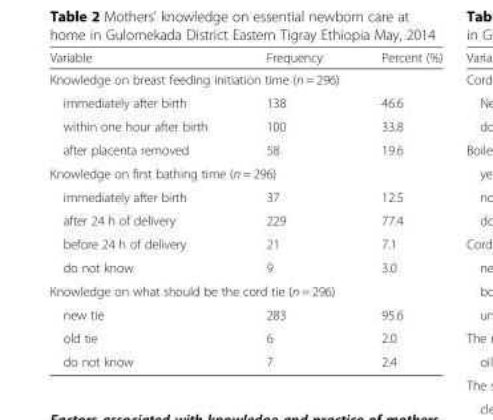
<table><thead><tr><td>Variable</td><td>Frequency</td><td>Percent (%)</td></tr></thead><tbody><tr><td colspan="3">Knowledge on breast feeding initiation time (n = 296)</td></tr><tr><td>immediately after birth</td><td>138</td><td>46.6</td></tr><tr><td>within one hour after birth</td><td>100</td><td>33.8</td></tr><tr><td>after placenta removed</td><td>58</td><td>19.6</td></tr><tr><td colspan="3">Knowledge on first bathing time (n = 296)</td></tr><tr><td>immediately after birth</td><td>37</td><td>12.5</td></tr><tr><td>after 24 h of delivery</td><td>229</td><td>77.4</td></tr><tr><td>before 24 h of delivery</td><td>21</td><td>7.1</td></tr><tr><td>do not know</td><td>9</td><td>3.0</td></tr><tr><td colspan="3">Knowledge on what should be the cord tie (n = 296)</td></tr><tr><td>new tie</td><td>283</td><td>95.6</td></tr><tr><td>old tie</td><td>6</td><td>2.0</td></tr><tr><td>do not know</td><td>7</td><td>2.4</td></tr></tbody></table>